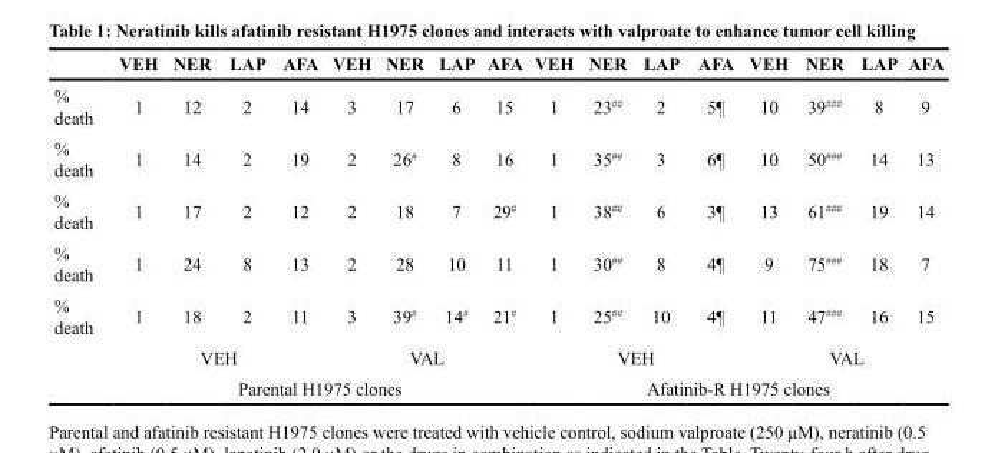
<table><thead><tr><td></td><td>VEH</td><td>NER</td><td>LAP</td><td>AFA</td><td>VEH</td><td>NER</td><td>LAP</td><td>AFA</td><td>VEH</td><td>NER</td><td>LAP</td><td>AFA</td><td>VEH</td><td>NER</td><td>LAP</td><td>AFA</td></tr></thead><tbody><tr><td>% death</td><td>1</td><td>12</td><td>2</td><td>14</td><td>3</td><td>17</td><td>6</td><td>15</td><td>1</td><td>23<sup>##</sup></td><td>2</td><td>5¶</td><td>10</td><td>39<sup>###</sup></td><td>8</td><td>9</td></tr><tr><td>% death</td><td>1</td><td>14</td><td>2</td><td>19</td><td>2</td><td>26<sup>#</sup></td><td>8</td><td>16</td><td>1</td><td>35<sup>##</sup></td><td>3</td><td>6¶</td><td>10</td><td>50<sup>###</sup></td><td>14</td><td>13</td></tr><tr><td>% death</td><td>1</td><td>17</td><td>2</td><td>12</td><td>2</td><td>18</td><td>7</td><td>29<sup>#</sup></td><td>1</td><td>38<sup>##</sup></td><td>6</td><td>3¶</td><td>13</td><td>61<sup>###</sup></td><td>19</td><td>14</td></tr><tr><td>% death</td><td>1</td><td>24</td><td>8</td><td>13</td><td>2</td><td>28</td><td>10</td><td>11</td><td>1</td><td>30<sup>##</sup></td><td>8</td><td>4¶</td><td>9</td><td>75<sup>###</sup></td><td>18</td><td>7</td></tr><tr><td>% death</td><td>1</td><td>18</td><td>2</td><td>11</td><td>3</td><td>39<sup>#</sup></td><td>14<sup>#</sup></td><td>21<sup>#</sup></td><td>1</td><td>25<sup>##</sup></td><td>10</td><td>4¶</td><td>11</td><td>47<sup>###</sup></td><td>16</td><td>15</td></tr><tr><td colspan="6">VEH</td><td colspan="3">VAL</td><td colspan="4">VEH</td><td colspan="4">VAL</td></tr><tr><td colspan="9">Parental H1975 clones</td><td colspan="8">Afatinib-R H1975 clones</td></tr></tbody></table>